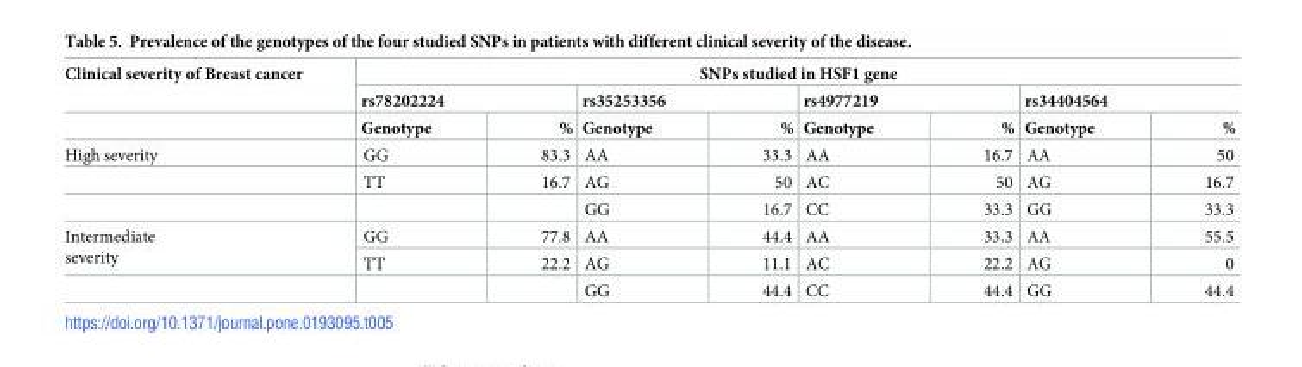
<table><thead><tr><td rowspan="3">Clinical severity of Breast cancer</td><td colspan="8">SNPs studied in HSF1 gene</td></tr><tr><td colspan="2">rs78202224</td><td colspan="2">rs35253356</td><td colspan="2">rs4977219</td><td colspan="2">rs34404564</td></tr><tr><td>Genotype</td><td>%</td><td>Genotype</td><td>%</td><td>Genotype</td><td>%</td><td>Genotype</td><td>%</td></tr></thead><tbody><tr><td rowspan="3">High severity</td><td>GG</td><td>83.3</td><td>AA</td><td>33.3</td><td>AA</td><td>16.7</td><td>AA</td><td>50</td></tr><tr><td>TT</td><td>16.7</td><td>AG</td><td>50</td><td>AC</td><td>50</td><td>AG</td><td>16.7</td></tr><tr><td></td><td></td><td>GG</td><td>16.7</td><td>CC</td><td>33.3</td><td>GG</td><td>33.3</td></tr><tr><td rowspan="3">Intermediate severity</td><td>GG</td><td>77.8</td><td>AA</td><td>44.4</td><td>AA</td><td>33.3</td><td>AA</td><td>55.5</td></tr><tr><td>TT</td><td>22.2</td><td>AG</td><td>11.1</td><td>AC</td><td>22.2</td><td>AG</td><td>0</td></tr><tr><td></td><td></td><td>GG</td><td>44.4</td><td>CC</td><td>44.4</td><td>GG</td><td>44.4</td></tr></tbody></table>